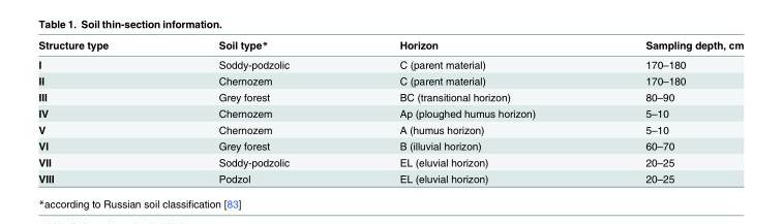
<table><thead><tr><td>Structure type</td><td>Soil type*</td><td>Horizon</td><td>Sampling depth, cm</td></tr></thead><tbody><tr><td>I</td><td>Soddy-podzolic</td><td>C (parent material)</td><td>170–180</td></tr><tr><td>II</td><td>Chernozem</td><td>C (parent material)</td><td>170–180</td></tr><tr><td>III</td><td>Grey forest</td><td>BC (transitional horizon)</td><td>80–90</td></tr><tr><td>IV</td><td>Chernozem</td><td>Ap (ploughed humus horizon)</td><td>5–10</td></tr><tr><td>V</td><td>Chernozem</td><td>A (humus horizon)</td><td>5–10</td></tr><tr><td>VI</td><td>Grey forest</td><td>B (illuvial horizon)</td><td>60–70</td></tr><tr><td>VII</td><td>Soddy-podzolic</td><td>EL (eluvial horizon)</td><td>20–25</td></tr><tr><td>VIII</td><td>Podzol</td><td>EL (eluvial horizon)</td><td>20–25</td></tr></tbody></table>